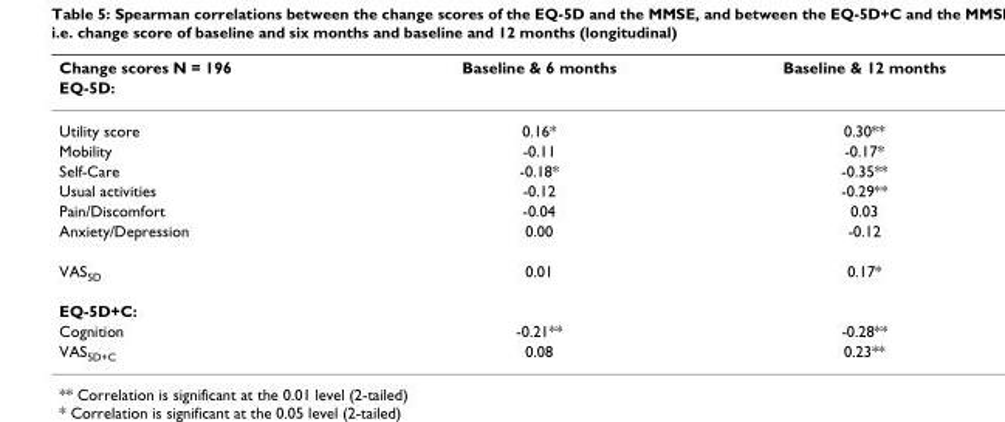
<table><thead><tr><td rowspan="2">Change scores N = 196 EQ-5D:</td><td rowspan="2">Baseline &amp; 6 months</td><td rowspan="2">Baseline &amp; 12 months</td></tr><tr></tr></thead><tbody><tr><td>Utility score</td><td>0.16*</td><td>0.30**</td></tr><tr><td>Mobility</td><td>-0.11</td><td>-0.17*</td></tr><tr><td>Self-Care</td><td>-0.18*</td><td>-0.35**</td></tr><tr><td>Usual activities</td><td>-0.12</td><td>-0.29**</td></tr><tr><td>Pain/Discomfort</td><td>-0.04</td><td>0.03</td></tr><tr><td>Anxiety/Depression</td><td>0.00</td><td>-0.12</td></tr><tr><td>VAS<sub>5D</sub></td><td>0.01</td><td>0.17*</td></tr><tr><td colspan="3">EQ-5D+C:</td></tr><tr><td>Cognition</td><td>-0.21**</td><td>-0.28**</td></tr><tr><td>VAS<sub>5D+C</sub></td><td>0.08</td><td>0.23**</td></tr></tbody></table>